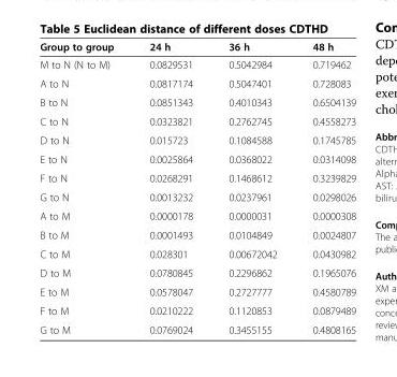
<table><thead><tr><td>Group to group</td><td>24 h</td><td>36 h</td><td>48 h</td></tr></thead><tbody><tr><td>M to N (N to M)</td><td>0.0829531</td><td>0.5042984</td><td>0.719462</td></tr><tr><td>A to N</td><td>0.0817174</td><td>0.5047401</td><td>0.728083</td></tr><tr><td>B to N</td><td>0.0851343</td><td>0.4010343</td><td>0.6504139</td></tr><tr><td>C to N</td><td>0.0323821</td><td>0.2762745</td><td>0.4558273</td></tr><tr><td>D to N</td><td>0.015723</td><td>0.1084588</td><td>0.1745785</td></tr><tr><td>E to N</td><td>0.0025864</td><td>0.0368022</td><td>0.0314098</td></tr><tr><td>F to N</td><td>0.0268291</td><td>0.1468612</td><td>0.3239829</td></tr><tr><td>G to N</td><td>0.0013232</td><td>0.0237961</td><td>0.0298026</td></tr><tr><td>A to M</td><td>0.0000178</td><td>0.0000031</td><td>0.0000308</td></tr><tr><td>B to M</td><td>0.0001493</td><td>0.0104849</td><td>0.0024807</td></tr><tr><td>C to M</td><td>0.028301</td><td>0.00672042</td><td>0.0430982</td></tr><tr><td>D to M</td><td>0.0780845</td><td>0.2296862</td><td>0.1965076</td></tr><tr><td>E to M</td><td>0.0578047</td><td>0.2727777</td><td>0.4580789</td></tr><tr><td>F to M</td><td>0.0210222</td><td>0.1120853</td><td>0.0879489</td></tr><tr><td>G to M</td><td>0.0769024</td><td>0.3455155</td><td>0.4808165</td></tr></tbody></table>